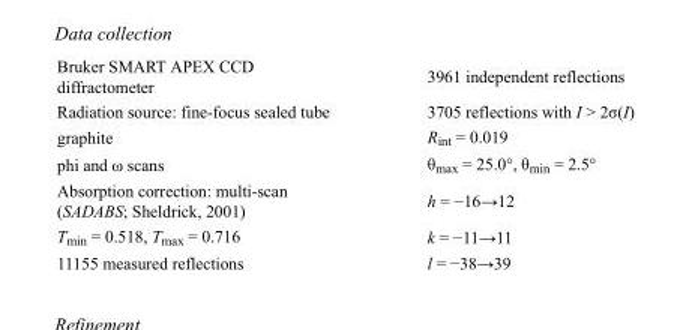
<table><tbody><tr><td>Bruker SMART APEX CCD diffractometer</td><td>3961 independent reflections</td></tr><tr><td>Radiation source: fine-focus sealed tube</td><td>3705 reflections with I &gt; 2σ(I)</td></tr><tr><td>graphite</td><td>R<sub>int</sub> = 0.019</td></tr><tr><td>phi and ω scans</td><td>θ<sub>max</sub> = 25.0°, θ<sub>min</sub> = 2.5°</td></tr><tr><td>Absorption correction: multi-scan (SADABS; Sheldrick, 2001)</td><td>h = −16→12</td></tr><tr><td>T<sub>min</sub> = 0.518, T<sub>max</sub> = 0.716</td><td>k = −11→11</td></tr><tr><td>11155 measured reflections</td><td>l = −38→39</td></tr></tbody></table>